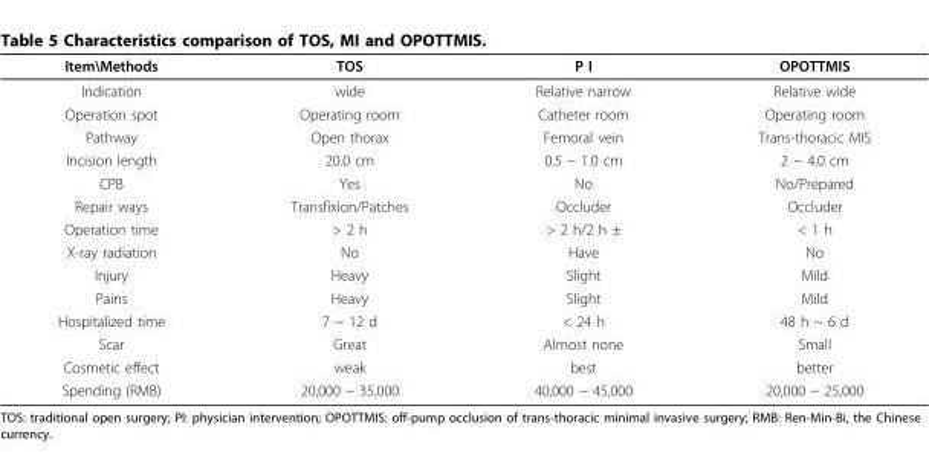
<table><thead><tr><td>Item\Methods</td><td>TOS</td><td>P I</td><td>OPOTTMIS</td></tr></thead><tbody><tr><td>Indication</td><td>wide</td><td>Relative narrow</td><td>Relative wide</td></tr><tr><td>Operation spot</td><td>Operating room</td><td>Catheter room</td><td>Operating room</td></tr><tr><td>Pathway</td><td>Open thorax</td><td>Femoral vein</td><td>Trans-thoracic MIS</td></tr><tr><td>Incision length</td><td>20.0 cm</td><td>0.5 ~ 1.0 cm</td><td>2 ~ 4.0 cm</td></tr><tr><td>CPB</td><td>Yes</td><td>No</td><td>No/Prepared</td></tr><tr><td>Repair ways</td><td>Transfixion/Patches</td><td>Occluder</td><td>Occluder</td></tr><tr><td>Operation time</td><td>&gt; 2 h</td><td>&gt; 2 h/2 h ±</td><td>&lt; 1 h</td></tr><tr><td>X-ray radiation</td><td>No</td><td>Have</td><td>No</td></tr><tr><td>Injury</td><td>Heavy</td><td>Slight</td><td>Mild</td></tr><tr><td>Pains</td><td>Heavy</td><td>Slight</td><td>Mild</td></tr><tr><td>Hospitalized time</td><td>7 ~ 12 d</td><td>&lt; 24 h</td><td>48 h ~ 6 d</td></tr><tr><td>Scar</td><td>Great</td><td>Almost none</td><td>Small</td></tr><tr><td>Cosmetic effect</td><td>weak</td><td>best</td><td>better</td></tr><tr><td>Spending (RMB)</td><td>20,000 ~ 35,000</td><td>40,000 ~ 45,000</td><td>20,000 ~ 25,000</td></tr></tbody></table>